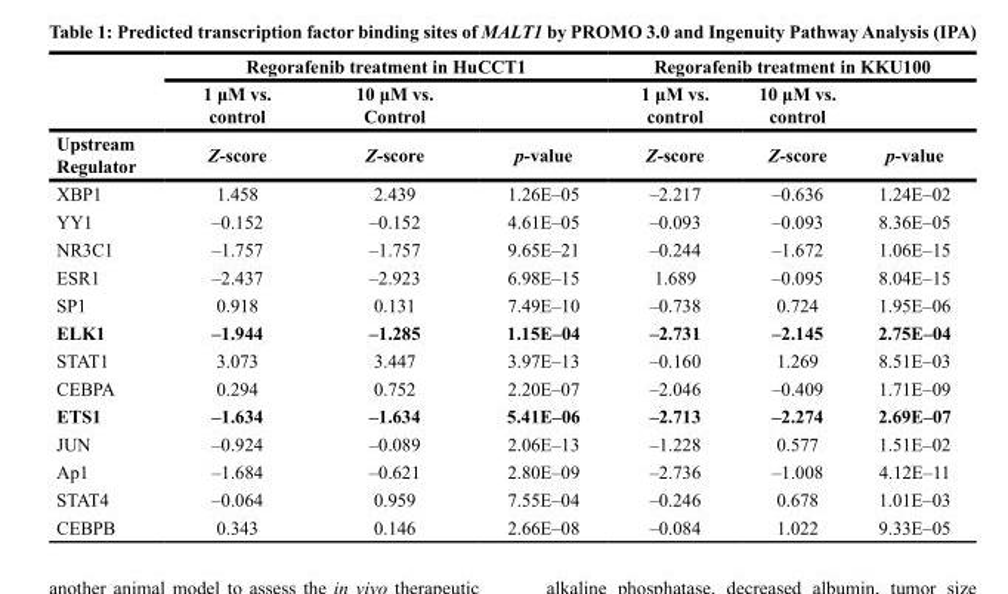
<table><thead><tr><td rowspan="3">Upstream Regulator</td><td colspan="3">Regorafenib treatment in HuCCT1</td><td colspan="3">Regorafenib treatment in KKU100</td></tr><tr><td rowspan="2">1 μM vs. control Z-score</td><td rowspan="2">10 μM vs. Control Z-score</td><td rowspan="2">p-value</td><td rowspan="2">1 μM vs. control Z-score</td><td rowspan="2">10 μM vs. control Z-score</td><td rowspan="2">p-value</td></tr><tr></tr></thead><tbody><tr><td>XBP1</td><td>1.458</td><td>2.439</td><td>1.26E–05</td><td>–2.217</td><td>–0.636</td><td>1.24E–02</td></tr><tr><td>YY1</td><td>–0.152</td><td>–0.152</td><td>4.61E–05</td><td>–0.093</td><td>–0.093</td><td>8.36E–05</td></tr><tr><td>NR3C1</td><td>–1.757</td><td>–1.757</td><td>9.65E–21</td><td>–0.244</td><td>–1.672</td><td>1.06E–15</td></tr><tr><td>ESR1</td><td>–2.437</td><td>–2.923</td><td>6.98E–15</td><td>1.689</td><td>–0.095</td><td>8.04E–15</td></tr><tr><td>SP1</td><td>0.918</td><td>0.131</td><td>7.49E–10</td><td>–0.738</td><td>0.724</td><td>1.95E–06</td></tr><tr><td>ELK1</td><td>–1.944</td><td>–1.285</td><td>1.15E–04</td><td>–2.731</td><td>–2.145</td><td>2.75E–04</td></tr><tr><td>STAT1</td><td>3.073</td><td>3.447</td><td>3.97E–13</td><td>–0.160</td><td>1.269</td><td>8.51E–03</td></tr><tr><td>CEBPA</td><td>0.294</td><td>0.752</td><td>2.20E–07</td><td>–2.046</td><td>–0.409</td><td>1.71E–09</td></tr><tr><td>ETS1</td><td>–1.634</td><td>–1.634</td><td>5.41E–06</td><td>–2.713</td><td>–2.274</td><td>2.69E–07</td></tr><tr><td>JUN</td><td>–0.924</td><td>–0.089</td><td>2.06E–13</td><td>–1.228</td><td>0.577</td><td>1.51E–02</td></tr><tr><td>Ap1</td><td>–1.684</td><td>–0.621</td><td>2.80E–09</td><td>–2.736</td><td>–1.008</td><td>4.12E–11</td></tr><tr><td>STAT4</td><td>–0.064</td><td>0.959</td><td>7.55E–04</td><td>–0.246</td><td>0.678</td><td>1.01E–03</td></tr><tr><td>CEBPB</td><td>0.343</td><td>0.146</td><td>2.66E–08</td><td>–0.084</td><td>1.022</td><td>9.33E–05</td></tr></tbody></table>